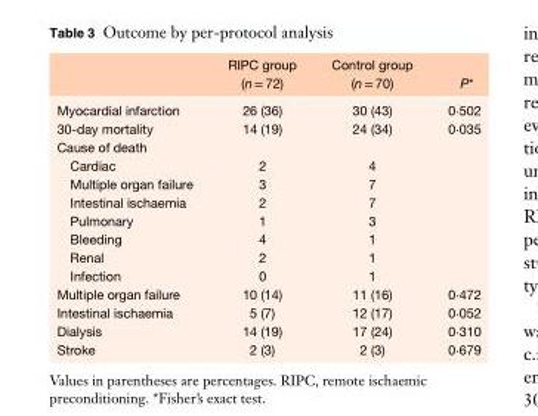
<table><thead><tr><td rowspan="2"></td><td rowspan="2">RIPC group (n = 72)</td><td rowspan="2">Control group (n = 70)</td><td rowspan="2">P*</td></tr><tr></tr></thead><tbody><tr><td>Myocardial infarction</td><td>26 (36)</td><td>30 (43)</td><td>0⋅502</td></tr><tr><td>30-day mortality</td><td>14 (19)</td><td>24 (34)</td><td>0⋅035</td></tr><tr><td colspan="4">Cause of death</td></tr><tr><td>Cardiac</td><td>2</td><td>4</td><td></td></tr><tr><td>Multiple organ failure</td><td>3</td><td>7</td><td></td></tr><tr><td>Intestinal ischaemia</td><td>2</td><td>7</td><td></td></tr><tr><td>Pulmonary</td><td>1</td><td>3</td><td></td></tr><tr><td>Bleeding</td><td>4</td><td>1</td><td></td></tr><tr><td>Renal</td><td>2</td><td>1</td><td></td></tr><tr><td>Infection</td><td>0</td><td>1</td><td></td></tr><tr><td>Multiple organ failure</td><td>10 (14)</td><td>11 (16)</td><td>0⋅472</td></tr><tr><td>Intestinal ischaemia</td><td>5 (7)</td><td>12 (17)</td><td>0⋅052</td></tr><tr><td>Dialysis</td><td>14 (19)</td><td>17 (24)</td><td>0⋅310</td></tr><tr><td>Stroke</td><td>2 (3)</td><td>2 (3)</td><td>0⋅679</td></tr></tbody></table>